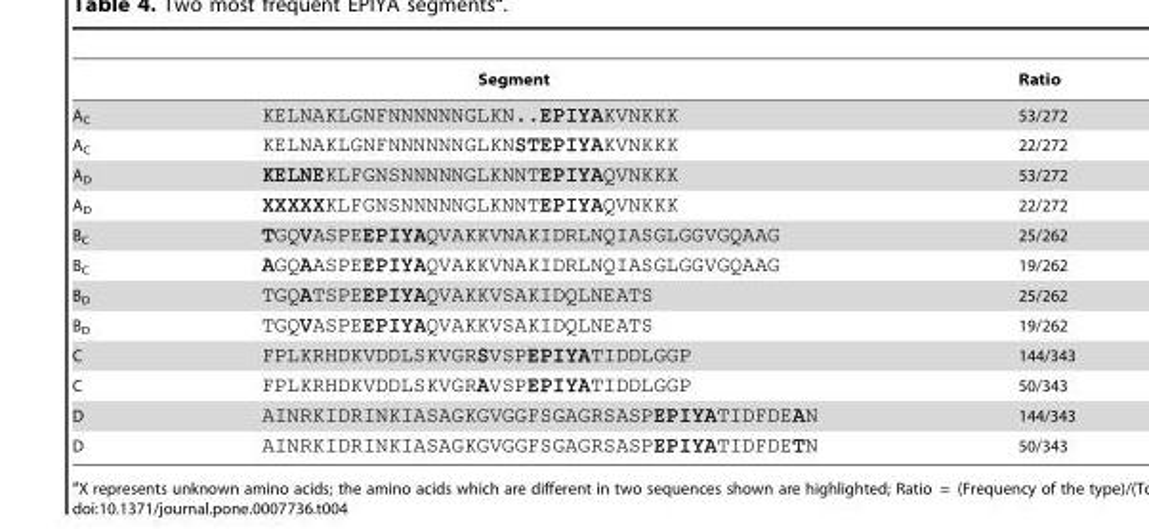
<table><thead><tr><td></td><td>Segment</td><td>Ratio</td></tr></thead><tbody><tr><td>A<sub>C</sub></td><td>KELNAKLGNFNNNNNNGLKN..EEPIYAKVNKKK</td><td>53/272</td></tr><tr><td>A<sub>C</sub></td><td>KELNAKLGNFNNNNNNGLKNSSTEPIYAKVNKKK</td><td>22/272</td></tr><tr><td>A<sub>D</sub></td><td>KELNEKLFGNSNNNNNGLKNNTEEPIYAQVNKKK</td><td>53/272</td></tr><tr><td>A<sub>D</sub></td><td>XXXXXKLFGNSNNNNNGLKNNTEEPIYAQVNKKK</td><td>22/272</td></tr><tr><td>B<sub>C</sub></td><td>TGQVVASPEEEPIYAQVAKKVNAKIDRLNQIASGLGGVGQAAG</td><td>25/262</td></tr><tr><td>B<sub>C</sub></td><td>AGQAAASPEEEPIYAQVAKKVNAKIDRLNQIASGLGGVGQAAG</td><td>19/262</td></tr><tr><td>B<sub>D</sub></td><td>TGQAATSPEEEPIYAQVAKKVSAKIDQLNEATS</td><td>25/262</td></tr><tr><td>B<sub>D</sub></td><td>TGQVVASPEEEPIYAQVAKKVSAKIDQLNEATS</td><td>19/262</td></tr><tr><td>C</td><td>FPLKRHDKVDDLSKVGRSSVSPEEPIYATIDDLGGP</td><td>144/343</td></tr><tr><td>C</td><td>FPLKRHDKVDDLSKVGRAAVSPEEPIYATIDDLGGP</td><td>50/343</td></tr><tr><td>D</td><td>AINRKIDRINKIASAGKGVGGFSGAGRSASPEEPIYATIDFDEAAN</td><td>144/343</td></tr><tr><td>D</td><td>AINRKIDRINKIASAGKGVGGFSGAGRSASPEEPIYATIDFDETTN</td><td>50/343</td></tr></tbody></table>